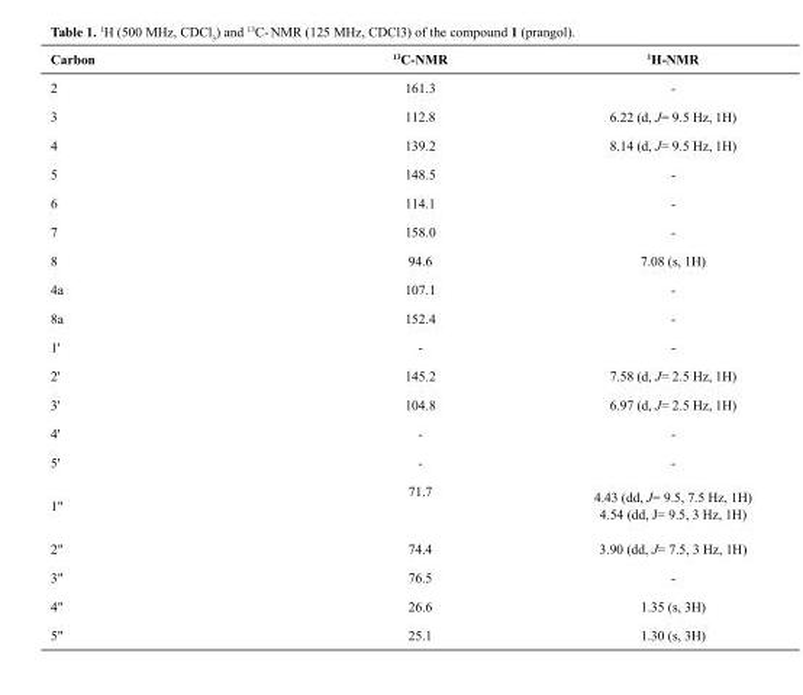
<table><thead><tr><td>Carbon</td><td><sup>13</sup>C-NMR</td><td><sup>1</sup>H-NMR</td></tr></thead><tbody><tr><td>2</td><td>161.3</td><td>-</td></tr><tr><td>3</td><td>112.8</td><td>6.22 (d, J= 9.5 Hz, 1H)</td></tr><tr><td>4</td><td>139.2</td><td>8.14 (d, J= 9.5 Hz, 1H)</td></tr><tr><td>5</td><td>148.5</td><td>-</td></tr><tr><td>6</td><td>114.1</td><td>-</td></tr><tr><td>7</td><td>158.0</td><td>-</td></tr><tr><td>8</td><td>94.6</td><td>7.08 (s, 1H)</td></tr><tr><td>4a</td><td>107.1</td><td>-</td></tr><tr><td>8a</td><td>152.4</td><td>-</td></tr><tr><td>1&#x27;</td><td>-</td><td>-</td></tr><tr><td>2&#x27;</td><td>145.2</td><td>7.58 (d, J= 2.5 Hz, 1H)</td></tr><tr><td>3&#x27;</td><td>104.8</td><td>6.97 (d, J= 2.5 Hz, 1H)</td></tr><tr><td>4&#x27;</td><td>-</td><td>-</td></tr><tr><td>5&#x27;</td><td>-</td><td>-</td></tr><tr><td>1&quot;</td><td>71.7</td><td>4.43 (dd, J= 9.5, 7.5 Hz, 1H) 4.54 (dd, J= 9.5, 3 Hz, 1H)</td></tr><tr><td>2&quot;</td><td>74.4</td><td>3.90 (dd, J= 7.5, 3 Hz, 1H)</td></tr><tr><td>3&quot;</td><td>76.5</td><td>-</td></tr><tr><td>4&quot;</td><td>26.6</td><td>1.35 (s, 3H)</td></tr><tr><td>5&quot;</td><td>25.1</td><td>1.30 (s, 3H)</td></tr></tbody></table>